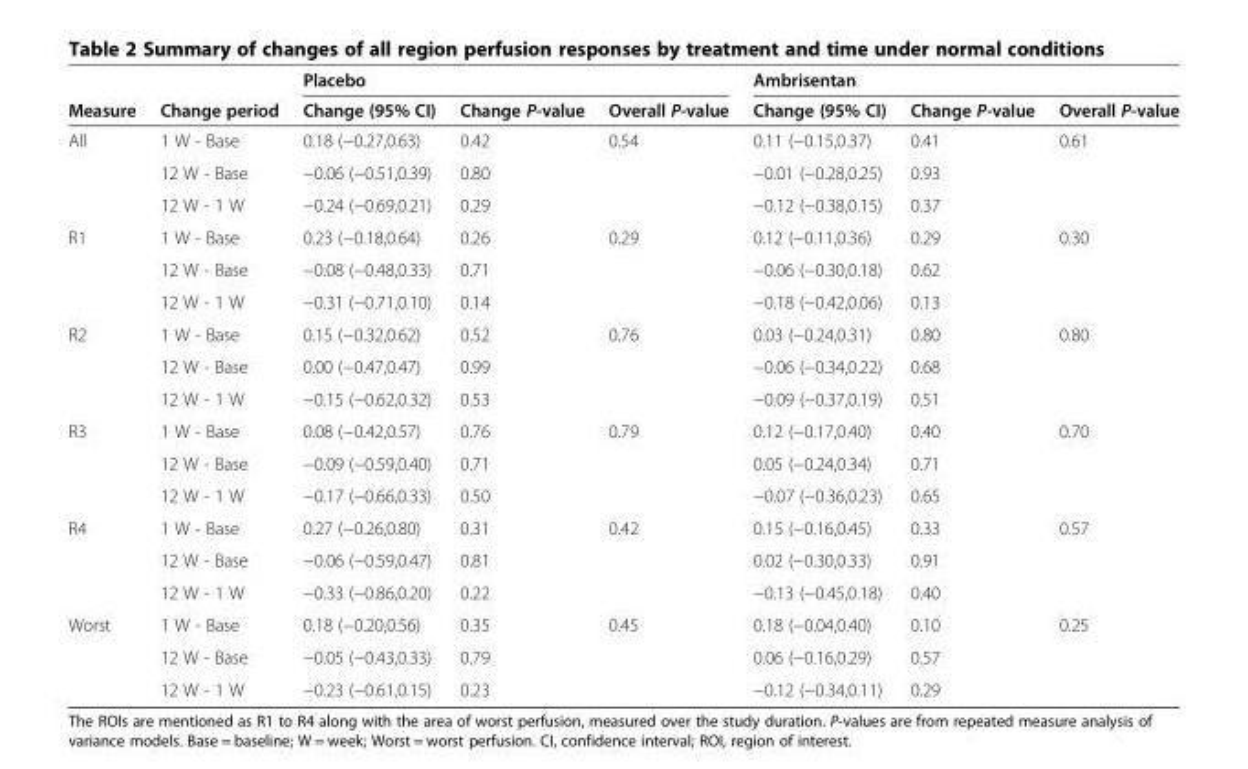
<table><thead><tr><td rowspan="2">Measure</td><td rowspan="2">Change period</td><td colspan="3">Placebo</td><td colspan="3">Ambrisentan</td></tr><tr><td>Change (95% CI)</td><td>Change P-value</td><td>Overall P-value</td><td>Change (95% CI)</td><td>Change P-value</td><td>Overall P-value</td></tr></thead><tbody><tr><td rowspan="3">All</td><td>1 W - Base</td><td>0.18 (−0.27,0.63)</td><td>0.42</td><td>0.54</td><td>0.11 (−0.15,0.37)</td><td>0.41</td><td>0.61</td></tr><tr><td>12 W - Base</td><td>−0.06 (−0.51,0.39)</td><td>0.80</td><td></td><td>−0.01 (−0.28,0.25)</td><td>0.93</td><td></td></tr><tr><td>12 W - 1 W</td><td>−0.24 (−0.69,0.21)</td><td>0.29</td><td></td><td>−0.12 (−0.38,0.15)</td><td>0.37</td><td></td></tr><tr><td rowspan="3">R1</td><td>1 W - Base</td><td>0.23 (−0.18,0.64)</td><td>0.26</td><td>0.29</td><td>0.12 (−0.11,0.36)</td><td>0.29</td><td>0.30</td></tr><tr><td>12 W - Base</td><td>−0.08 (−0.48,0.33)</td><td>0.71</td><td></td><td>−0.06 (−0.30,0.18)</td><td>0.62</td><td></td></tr><tr><td>12 W - 1 W</td><td>−0.31 (−0.71,0.10)</td><td>0.14</td><td></td><td>−0.18 (−0.42,0.06)</td><td>0.13</td><td></td></tr><tr><td rowspan="3">R2</td><td>1 W - Base</td><td>0.15 (−0.32,0.62)</td><td>0.52</td><td>0.76</td><td>0.03 (−0.24,0.31)</td><td>0.80</td><td>0.80</td></tr><tr><td>12 W - Base</td><td>0.00 (−0.47,0.47)</td><td>0.99</td><td></td><td>−0.06 (−0.34,0.22)</td><td>0.68</td><td></td></tr><tr><td>12 W - 1 W</td><td>−0.15 (−0.62,0.32)</td><td>0.53</td><td></td><td>−0.09 (−0.37,0.19)</td><td>0.51</td><td></td></tr><tr><td rowspan="3">R3</td><td>1 W - Base</td><td>0.08 (−0.42,0.57)</td><td>0.76</td><td>0.79</td><td>0.12 (−0.17,0.40)</td><td>0.40</td><td>0.70</td></tr><tr><td>12 W - Base</td><td>−0.09 (−0.59,0.40)</td><td>0.71</td><td></td><td>0.05 (−0.24,0.34)</td><td>0.71</td><td></td></tr><tr><td>12 W - 1 W</td><td>−0.17 (−0.66,0.33)</td><td>0.50</td><td></td><td>−0.07 (−0.36,0.23)</td><td>0.65</td><td></td></tr><tr><td rowspan="3">R4</td><td>1 W - Base</td><td>0.27 (−0.26,0.80)</td><td>0.31</td><td>0.42</td><td>0.15 (−0.16,0.45)</td><td>0.33</td><td>0.57</td></tr><tr><td>12 W - Base</td><td>−0.06 (−0.59,0.47)</td><td>0.81</td><td></td><td>0.02 (−0.30,0.33)</td><td>0.91</td><td></td></tr><tr><td>12 W - 1 W</td><td>−0.33 (−0.86,0.20)</td><td>0.22</td><td></td><td>−0.13 (−0.45,0.18)</td><td>0.40</td><td></td></tr><tr><td rowspan="3">Worst</td><td>1 W - Base</td><td>0.18 (−0.20,0.56)</td><td>0.35</td><td>0.45</td><td>0.18 (−0.04,0.40)</td><td>0.10</td><td>0.25</td></tr><tr><td>12 W - Base</td><td>−0.05 (−0.43,0.33)</td><td>0.79</td><td></td><td>0.06 (−0.16,0.29)</td><td>0.57</td><td></td></tr><tr><td>12 W - 1 W</td><td>−0.23 (−0.61,0.15)</td><td>0.23</td><td></td><td>−0.12 (−0.34,0.11)</td><td>0.29</td><td></td></tr></tbody></table>